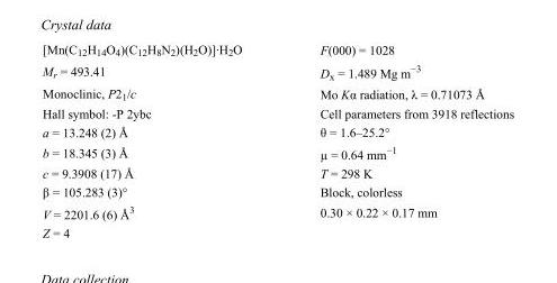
<table><tbody><tr><td>[Mn(C<sub>12</sub>H<sub>14</sub>O<sub>4</sub>)(C<sub>12</sub>H<sub>8</sub>N<sub>2</sub>)(H<sub>2</sub>O)]·H<sub>2</sub>O</td><td>F(000) = 1028</td></tr><tr><td>M<sub>r</sub> = 493.41</td><td>D<sub>x</sub> = 1.489 Mg m<sup>−3</sup></td></tr><tr><td>Monoclinic, P2<sub>1</sub>/c</td><td>Mo Kα radiation, λ = 0.71073 Å</td></tr><tr><td>Hall symbol: -P 2ybc</td><td>Cell parameters from 3918 reflections</td></tr><tr><td>a = 13.248 (2) Å</td><td>θ = 1.6–25.2°</td></tr><tr><td>b = 18.345 (3) Å</td><td>µ = 0.64 mm<sup>−1</sup></td></tr><tr><td>c = 9.3908 (17) Å</td><td>T = 298 K</td></tr><tr><td>β = 105.283 (3)°</td><td>Block, colorless</td></tr><tr><td>V = 2201.6 (6) Å<sup>3</sup></td><td>0.30 × 0.22 × 0.17 mm</td></tr><tr><td>Z = 4</td><td></td></tr></tbody></table>